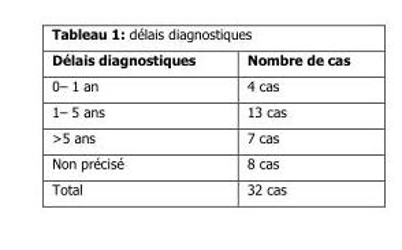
<table><thead><tr><td>Délais diagnostiques</td><td>Nombre de cas</td></tr></thead><tbody><tr><td>0– 1 an</td><td>4 cas</td></tr><tr><td>1– 5 ans</td><td>13 cas</td></tr><tr><td>&gt;5 ans</td><td>7 cas</td></tr><tr><td>Non précisé</td><td>8 cas</td></tr><tr><td>Total</td><td>32 cas</td></tr></tbody></table>